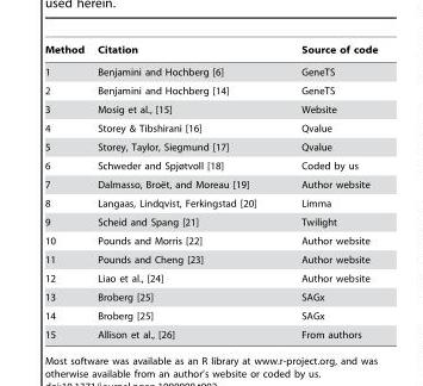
<table><thead><tr><td>Method</td><td>Citation</td><td>Source of code</td></tr></thead><tbody><tr><td>1</td><td>Benjamini and Hochberg [6]</td><td>GeneTS</td></tr><tr><td>2</td><td>Benjamini and Hochberg [14]</td><td>GeneTS</td></tr><tr><td>3</td><td>Mosig et al., [15]</td><td>Website</td></tr><tr><td>4</td><td>Storey &amp; Tibshirani [16]</td><td>Qvalue</td></tr><tr><td>5</td><td>Storey, Taylor, Siegmund [17]</td><td>Qvalue</td></tr><tr><td>6</td><td>Schweder and Spjøtvoll [18]</td><td>Coded by us</td></tr><tr><td>7</td><td>Dalmasso, Broe¨t, and Moreau [19]</td><td>Author website</td></tr><tr><td>8</td><td>Langaas, Lindqvist, Ferkingstad [20]</td><td>Limma</td></tr><tr><td>9</td><td>Scheid and Spang [21]</td><td>Twilight</td></tr><tr><td>10</td><td>Pounds and Morris [22]</td><td>Author website</td></tr><tr><td>11</td><td>Pounds and Cheng [23]</td><td>Author website</td></tr><tr><td>12</td><td>Liao et al., [24]</td><td>Author website</td></tr><tr><td>13</td><td>Broberg [25]</td><td>SAGx</td></tr><tr><td>14</td><td>Broberg [25]</td><td>SAGx</td></tr><tr><td>15</td><td>Allison et al., [26]</td><td>From authors</td></tr></tbody></table>